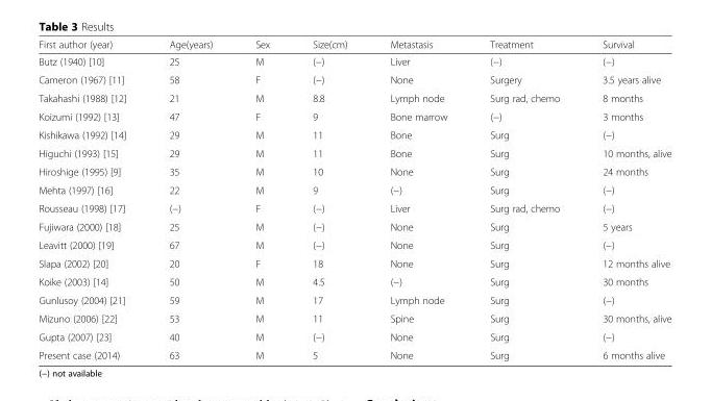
<table><thead><tr><td>First author (year)</td><td>Age(years)</td><td>Sex</td><td>Size(cm)</td><td>Metastasis</td><td>Treatment</td><td>Survival</td></tr></thead><tbody><tr><td>Butz (1940) [10]</td><td>25</td><td>M</td><td>(−)</td><td>Liver</td><td>(−)</td><td>(−)</td></tr><tr><td>Cameron (1967) [11]</td><td>58</td><td>F</td><td>(−)</td><td>None</td><td>Surgery</td><td>3.5 years alive</td></tr><tr><td>Takahashi (1988) [12]</td><td>21</td><td>M</td><td>8.8</td><td>Lymph node</td><td>Surg rad, chemo</td><td>8 months</td></tr><tr><td>Koizumi (1992) [13]</td><td>47</td><td>F</td><td>9</td><td>Bone marrow</td><td>(−)</td><td>3 months</td></tr><tr><td>Kishikawa (1992) [14]</td><td>29</td><td>M</td><td>11</td><td>Bone</td><td>Surg</td><td>(−)</td></tr><tr><td>Higuchi (1993) [15]</td><td>29</td><td>M</td><td>11</td><td>Bone</td><td>Surg</td><td>10 months, alive</td></tr><tr><td>Hiroshige (1995) [9]</td><td>35</td><td>M</td><td>10</td><td>None</td><td>Surg</td><td>24 months</td></tr><tr><td>Mehta (1997) [16]</td><td>22</td><td>M</td><td>9</td><td>(−)</td><td>Surg</td><td>(−)</td></tr><tr><td>Rousseau (1998) [17]</td><td>(−)</td><td>F</td><td>(−)</td><td>Liver</td><td>Surg rad, chemo</td><td>(−)</td></tr><tr><td>Fujiwara (2000) [18]</td><td>25</td><td>M</td><td>(−)</td><td>None</td><td>Surg</td><td>5 years</td></tr><tr><td>Leavitt (2000) [19]</td><td>67</td><td>M</td><td>(−)</td><td>None</td><td>Surg</td><td>(−)</td></tr><tr><td>Slapa (2002) [20]</td><td>20</td><td>F</td><td>18</td><td>None</td><td>Surg</td><td>12 months alive</td></tr><tr><td>Koike (2003) [14]</td><td>50</td><td>M</td><td>4.5</td><td>(−)</td><td>Surg</td><td>30 months</td></tr><tr><td>Gunlusoy (2004) [21]</td><td>59</td><td>M</td><td>17</td><td>Lymph node</td><td>Surg</td><td>(−)</td></tr><tr><td>Mizuno (2006) [22]</td><td>53</td><td>M</td><td>11</td><td>Spine</td><td>Surg</td><td>30 months, alive</td></tr><tr><td>Gupta (2007) [23]</td><td>40</td><td>M</td><td>(−)</td><td>None</td><td>Surg</td><td>(−)</td></tr><tr><td>Present case (2014)</td><td>63</td><td>M</td><td>5</td><td>None</td><td>Surg</td><td>6 months alive</td></tr></tbody></table>